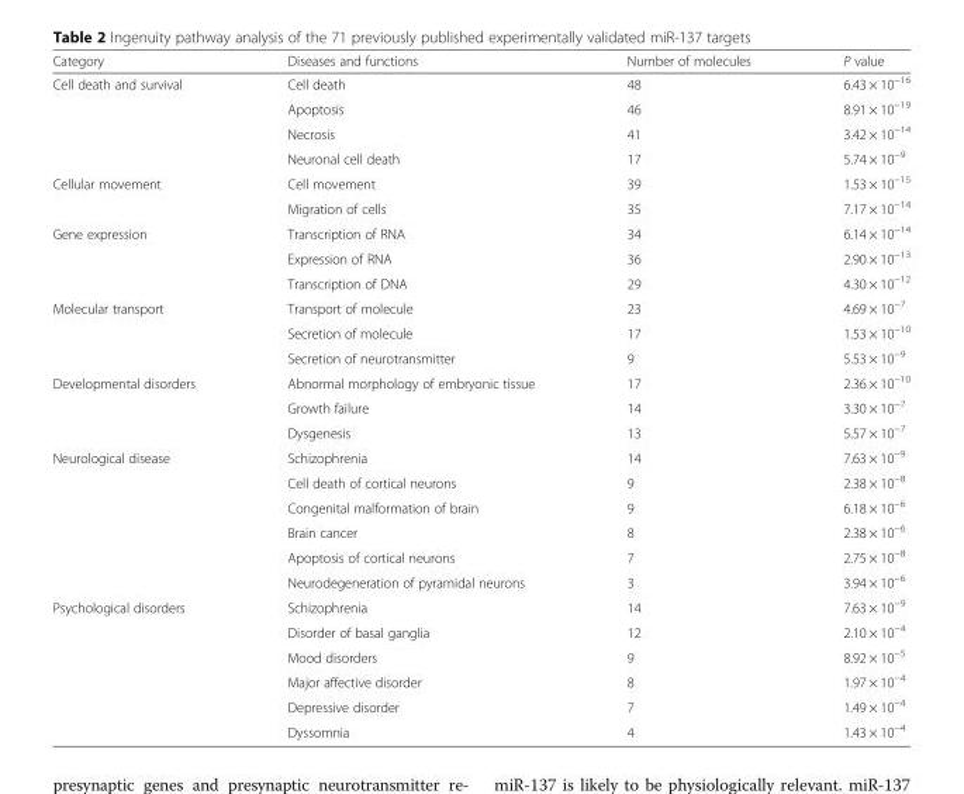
<table><thead><tr><td>Category</td><td>Diseases and functions</td><td>Number of molecules</td><td>P value</td></tr></thead><tbody><tr><td rowspan="4">Cell death and survival</td><td>Cell death</td><td>48</td><td>6.43 × 10<sup>−16</sup></td></tr><tr><td>Apoptosis</td><td>46</td><td>8.91 × 10<sup>−19</sup></td></tr><tr><td>Necrosis</td><td>41</td><td>3.42 × 10<sup>−14</sup></td></tr><tr><td>Neuronal cell death</td><td>17</td><td>5.74 × 10<sup>−9</sup></td></tr><tr><td rowspan="2">Cellular movement</td><td>Cell movement</td><td>39</td><td>1.53 × 10<sup>−15</sup></td></tr><tr><td>Migration of cells</td><td>35</td><td>7.17 × 10<sup>−14</sup></td></tr><tr><td rowspan="3">Gene expression</td><td>Transcription of RNA</td><td>34</td><td>6.14 × 10<sup>−14</sup></td></tr><tr><td>Expression of RNA</td><td>36</td><td>2.90 × 10<sup>−13</sup></td></tr><tr><td>Transcription of DNA</td><td>29</td><td>4.30 × 10<sup>−12</sup></td></tr><tr><td rowspan="3">Molecular transport</td><td>Transport of molecule</td><td>23</td><td>4.69 × 10<sup>−7</sup></td></tr><tr><td>Secretion of molecule</td><td>17</td><td>1.53 × 10<sup>−10</sup></td></tr><tr><td>Secretion of neurotransmitter</td><td>9</td><td>5.53 × 10<sup>−9</sup></td></tr><tr><td rowspan="3">Developmental disorders</td><td>Abnormal morphology of embryonic tissue</td><td>17</td><td>2.36 × 10<sup>−10</sup></td></tr><tr><td>Growth failure</td><td>14</td><td>3.30 × 10<sup>−7</sup></td></tr><tr><td>Dysgenesis</td><td>13</td><td>5.57 × 10<sup>−7</sup></td></tr><tr><td rowspan="6">Neurological disease</td><td>Schizophrenia</td><td>14</td><td>7.63 × 10<sup>−9</sup></td></tr><tr><td>Cell death of cortical neurons</td><td>9</td><td>2.38 × 10<sup>−8</sup></td></tr><tr><td>Congenital malformation of brain</td><td>9</td><td>6.18 × 10<sup>−6</sup></td></tr><tr><td>Brain cancer</td><td>8</td><td>2.38 × 10<sup>−6</sup></td></tr><tr><td>Apoptosis of cortical neurons</td><td>7</td><td>2.75 × 10<sup>−8</sup></td></tr><tr><td>Neurodegeneration of pyramidal neurons</td><td>3</td><td>3.94 × 10<sup>−6</sup></td></tr><tr><td rowspan="6">Psychological disorders</td><td>Schizophrenia</td><td>14</td><td>7.63 × 10<sup>−9</sup></td></tr><tr><td>Disorder of basal ganglia</td><td>12</td><td>2.10 × 10<sup>−4</sup></td></tr><tr><td>Mood disorders</td><td>9</td><td>8.92 × 10<sup>−5</sup></td></tr><tr><td>Major affective disorder</td><td>8</td><td>1.97 × 10<sup>−4</sup></td></tr><tr><td>Depressive disorder</td><td>7</td><td>1.49 × 10<sup>−4</sup></td></tr><tr><td>Dyssomnia</td><td>4</td><td>1.43 × 10<sup>−4</sup></td></tr></tbody></table>